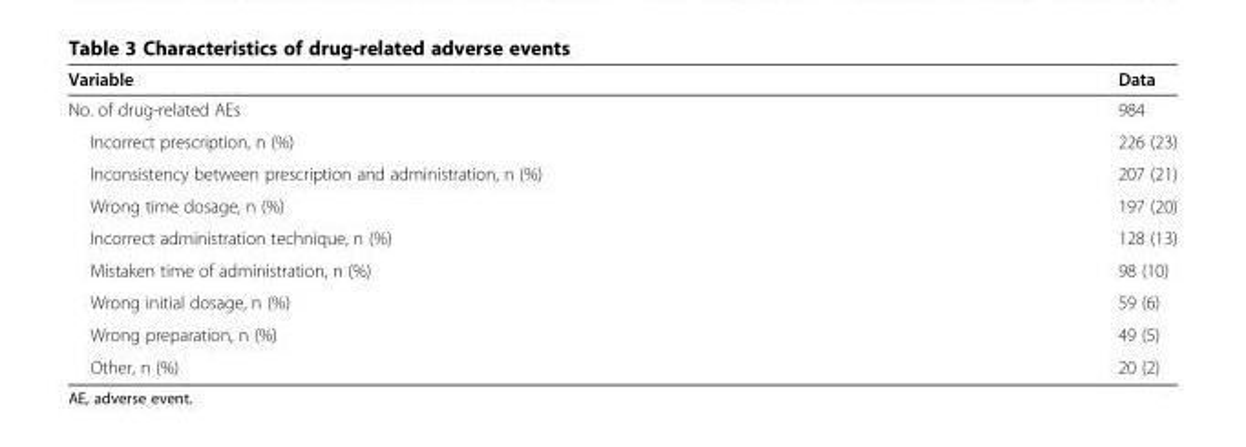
<table><thead><tr><td>Variable</td><td>Data</td></tr></thead><tbody><tr><td>No. of drug-related AEs</td><td>984</td></tr><tr><td>Incorrect prescription, n (%)</td><td>226 (23)</td></tr><tr><td>Inconsistency between prescription and administration, n (%)</td><td>207 (21)</td></tr><tr><td>Wrong time dosage, n (%)</td><td>197 (20)</td></tr><tr><td>Incorrect administration technique, n (%)</td><td>128 (13)</td></tr><tr><td>Mistaken time of administration, n (%)</td><td>98 (10)</td></tr><tr><td>Wrong initial dosage, n (%)</td><td>59 (6)</td></tr><tr><td>Wrong preparation, n (%)</td><td>49 (5)</td></tr><tr><td>Other, n (%)</td><td>20 (2)</td></tr></tbody></table>